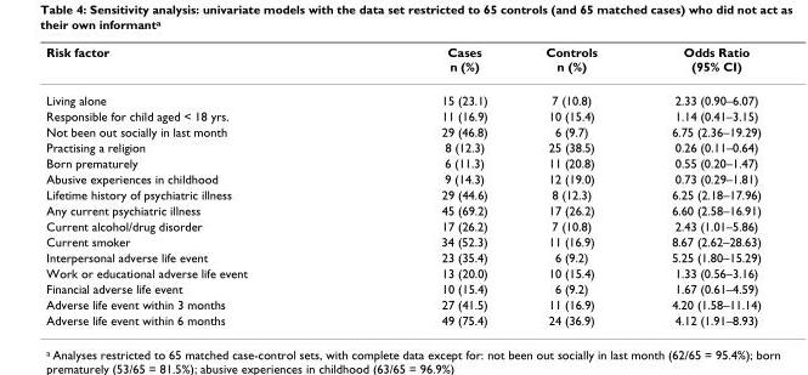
<table><thead><tr><td>Risk factor</td><td>Cases n (%)</td><td>Controls n (%)</td><td>Odds Ratio (95% CI)</td></tr></thead><tbody><tr><td>Living alone</td><td>15 (23.1)</td><td>7 (10.8)</td><td>2.33 (0.90–6.07)</td></tr><tr><td>Responsible for child aged &lt; 18 yrs.</td><td>11 (16.9)</td><td>10 (15.4)</td><td>1.14 (0.41–3.15)</td></tr><tr><td>Not been out socially in last month</td><td>29 (46.8)</td><td>6 (9.7)</td><td>6.75 (2.36–19.29)</td></tr><tr><td>Practising a religion</td><td>8 (12.3)</td><td>25 (38.5)</td><td>0.26 (0.11–0.64)</td></tr><tr><td>Born prematurely</td><td>6 (11.3)</td><td>11 (20.8)</td><td>0.55 (0.20–1.47)</td></tr><tr><td>Abusive experiences in childhood</td><td>9 (14.3)</td><td>12 (19.0)</td><td>0.73 (0.29–1.81)</td></tr><tr><td>Lifetime history of psychiatric illness</td><td>29 (44.6)</td><td>8 (12.3)</td><td>6.25 (2.18–17.96)</td></tr><tr><td>Any current psychiatric illness</td><td>45 (69.2)</td><td>17 (26.2)</td><td>6.60 (2.58–16.91)</td></tr><tr><td>Current alcohol/drug disorder</td><td>17 (26.2)</td><td>7 (10.8)</td><td>2.43 (1.01–5.86)</td></tr><tr><td>Current smoker</td><td>34 (52.3)</td><td>11 (16.9)</td><td>8.67 (2.62–28.63)</td></tr><tr><td>Interpersonal adverse life event</td><td>23 (35.4)</td><td>6 (9.2)</td><td>5.25 (1.80–15.29)</td></tr><tr><td>Work or educational adverse life event</td><td>13 (20.0)</td><td>10 (15.4)</td><td>1.33 (0.56–3.16)</td></tr><tr><td>Financial adverse life event</td><td>10 (15.4)</td><td>6 (9.2)</td><td>1.67 (0.61–4.59)</td></tr><tr><td>Adverse life event within 3 months</td><td>27 (41.5)</td><td>11 (16.9)</td><td>4.20 (1.58–11.14)</td></tr><tr><td>Adverse life event within 6 months</td><td>49 (75.4)</td><td>24 (36.9)</td><td>4.12 (1.91–8.93)</td></tr></tbody></table>